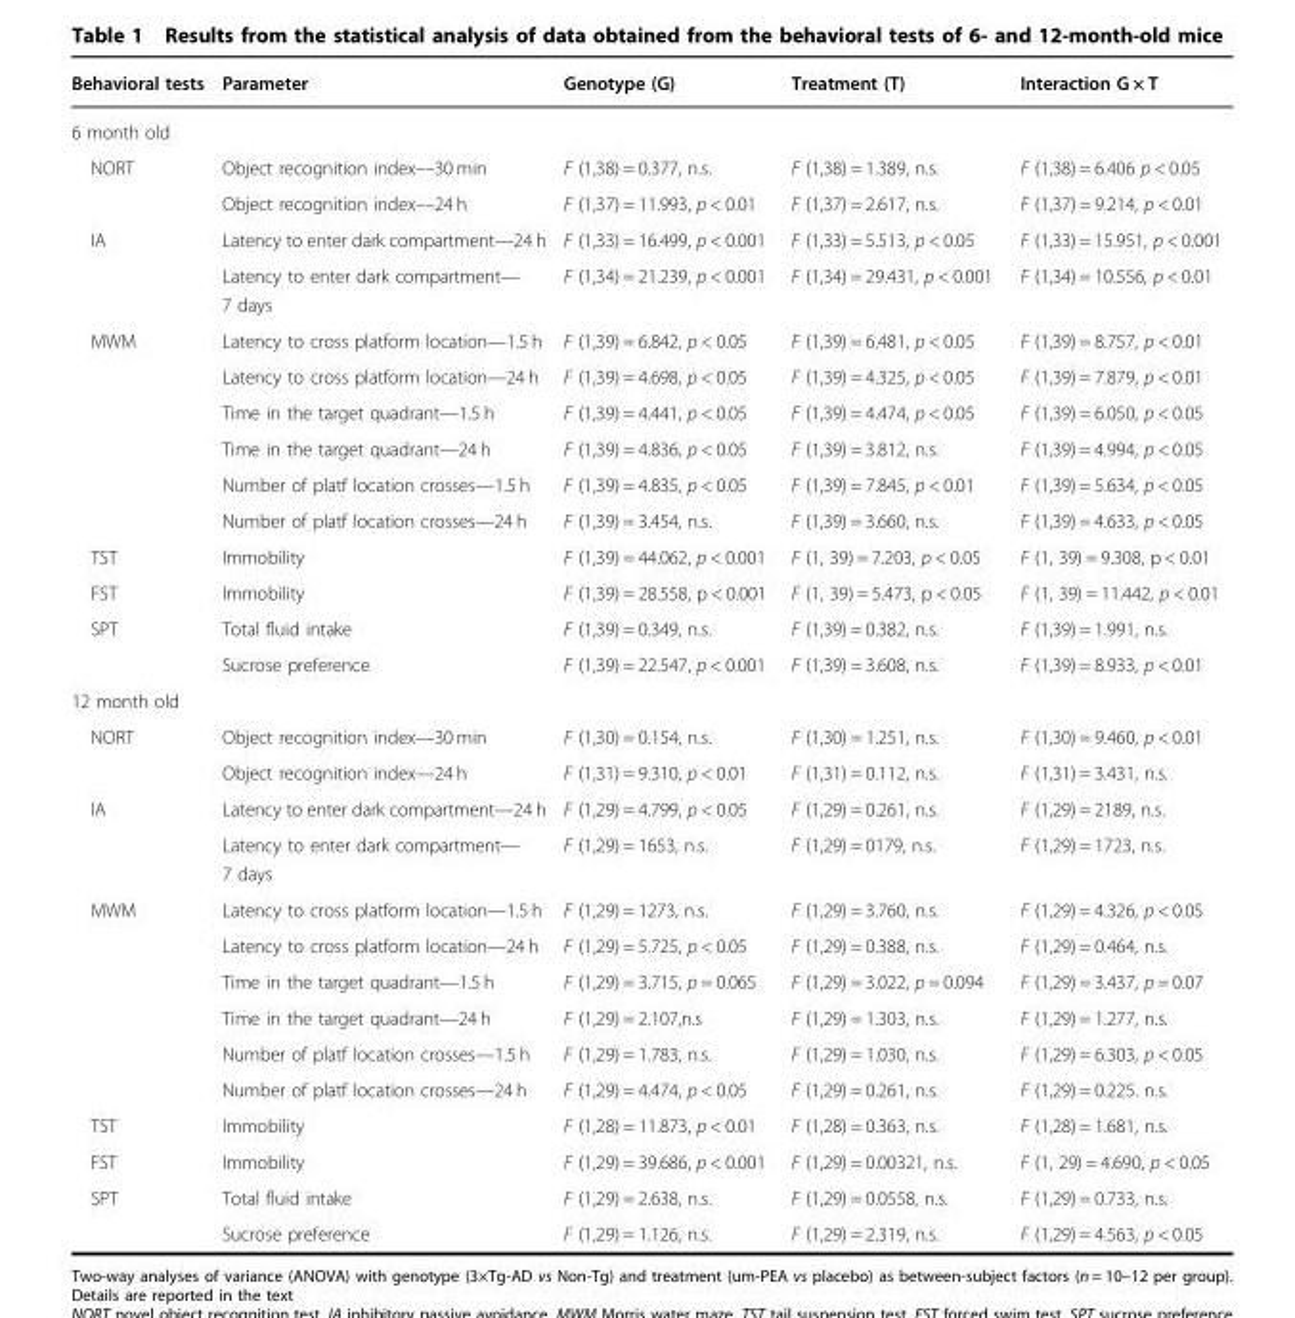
<table><thead><tr><td>Behavioral tests</td><td>Parameter</td><td>Genotype (G)</td><td>Treatment (T)</td><td>Interaction G × T</td></tr></thead><tbody><tr><td colspan="5">6 month old</td></tr><tr><td rowspan="2">NORT</td><td>Object recognition index––30 min</td><td>F (1,38) = 0.377, n.s.</td><td>F (1,38) = 1.389, n.s.</td><td>F (1,38) = 6.406 p &lt; 0.05</td></tr><tr><td>Object recognition index––24 h</td><td>F (1,37) = 11.993, p &lt; 0.01</td><td>F (1,37) = 2.617, n.s.</td><td>F (1,37) = 9.214, p &lt; 0.01</td></tr><tr><td rowspan="2">IA</td><td>Latency to enter dark compartment—24 h</td><td>F (1,33) = 16.499, p &lt; 0.001</td><td>F (1,33) = 5.513, p &lt; 0.05</td><td>F (1,33) = 15.951, p &lt; 0.001</td></tr><tr><td>Latency to enter dark compartment— 7 days</td><td>F (1,34) = 21.239, p &lt; 0.001</td><td>F (1,34) = 29.431, p &lt; 0.001</td><td>F (1,34) = 10.556, p &lt; 0.01</td></tr><tr><td rowspan="6">MWM</td><td>Latency to cross platform location—1.5 h</td><td>F (1,39) = 6.842, p &lt; 0.05</td><td>F (1,39) = 6.481, p &lt; 0.05</td><td>F (1,39) = 8.757, p &lt; 0.01</td></tr><tr><td>Latency to cross platform location—24 h</td><td>F (1,39) = 4.698, p &lt; 0.05</td><td>F (1,39) = 4.325, p &lt; 0.05</td><td>F (1,39) = 7.879, p &lt; 0.01</td></tr><tr><td>Time in the target quadrant—1.5 h</td><td>F (1,39) = 4.441, p &lt; 0.05</td><td>F (1,39) = 4.474, p &lt; 0.05</td><td>F (1,39) = 6.050, p &lt; 0.05</td></tr><tr><td>Time in the target quadrant—24 h</td><td>F (1,39) = 4.836, p &lt; 0.05</td><td>F (1,39) = 3.812, n.s.</td><td>F (1,39) = 4.994, p &lt; 0.05</td></tr><tr><td>Number of platf location crosses—1.5 h</td><td>F (1,39) = 4.835, p &lt; 0.05</td><td>F (1,39) = 7.845, p &lt; 0.01</td><td>F (1,39) = 5.634, p &lt; 0.05</td></tr><tr><td>Number of platf location crosses—24 h</td><td>F (1,39) = 3.454, n.s.</td><td>F (1,39) = 3.660, n.s.</td><td>F (1,39) = 4.633, p &lt; 0.05</td></tr><tr><td>TST</td><td>Immobility</td><td>F (1,39) = 44.062, p &lt; 0.001</td><td>F (1, 39) = 7.203, p &lt; 0.05</td><td>F (1, 39) = 9.308, p &lt; 0.01</td></tr><tr><td>FST</td><td>Immobility</td><td>F (1,39) = 28.558, p &lt; 0.001</td><td>F (1, 39) = 5.473, p &lt; 0.05</td><td>F (1, 39) = 11.442, p &lt; 0.01</td></tr><tr><td rowspan="2">SPT</td><td>Total fluid intake</td><td>F (1,39) = 0.349, n.s.</td><td>F (1,39) = 0.382, n.s.</td><td>F (1,39) = 1.991, n.s.</td></tr><tr><td>Sucrose preference</td><td>F (1,39) = 22.547, p &lt; 0.001</td><td>F (1,39) = 3.608, n.s.</td><td>F (1,39) = 8.933, p &lt; 0.01</td></tr><tr><td colspan="5">12 month old</td></tr><tr><td rowspan="2">NORT</td><td>Object recognition index—30 min</td><td>F (1,30) = 0.154, n.s.</td><td>F (1,30) = 1.251, n.s.</td><td>F (1,30) = 9.460, p &lt; 0.01</td></tr><tr><td>Object recognition index—24 h</td><td>F (1,31) = 9.310, p &lt; 0.01</td><td>F (1,31) = 0.112, n.s.</td><td>F (1,31) = 3.431, n.s.</td></tr><tr><td rowspan="2">IA</td><td>Latency to enter dark compartment—24 h</td><td>F (1,29) = 4.799, p &lt; 0.05</td><td>F (1,29) = 0.261, n.s.</td><td>F (1,29) = 2189, n.s.</td></tr><tr><td>Latency to enter dark compartment— 7 days</td><td>F (1,29) = 1653, n.s.</td><td>F (1,29) = 0179, n.s.</td><td>F (1,29) = 1723, n.s.</td></tr><tr><td rowspan="6">MWM</td><td>Latency to cross platform location—1.5 h</td><td>F (1,29) = 1273, n.s.</td><td>F (1,29) = 3.760, n.s.</td><td>F (1,29) = 4.326, p &lt; 0.05</td></tr><tr><td>Latency to cross platform location—24 h</td><td>F (1,29) = 5.725, p &lt; 0.05</td><td>F (1,29) = 0.388, n.s.</td><td>F (1,29) = 0.464, n.s.</td></tr><tr><td>Time in the target quadrant—1.5 h</td><td>F (1,29) = 3.715, p = 0.065</td><td>F (1,29) = 3.022, p = 0.094</td><td>F (1,29) = 3.437, p = 0.07</td></tr><tr><td>Time in the target quadrant—24 h</td><td>F (1,29) = 2.107,n.s</td><td>F (1,29) = 1.303, n.s.</td><td>F (1,29) = 1.277, n.s.</td></tr><tr><td>Number of platf location crosses—1.5 h</td><td>F (1,29) = 1.783, n.s.</td><td>F (1,29) = 1.030, n.s.</td><td>F (1,29) = 6.303, p &lt; 0.05</td></tr><tr><td>Number of platf location crosses—24 h</td><td>F (1,29) = 4.474, p &lt; 0.05</td><td>F (1,29) = 0.261, n.s.</td><td>F (1,29) = 0.225. n.s.</td></tr><tr><td>TST</td><td>Immobility</td><td>F (1,28) = 11.873, p &lt; 0.01</td><td>F (1,28) = 0.363, n.s.</td><td>F (1,28) = 1.681, n.s.</td></tr><tr><td>FST</td><td>Immobility</td><td>F (1,29) = 39.686, p &lt; 0.001</td><td>F (1,29) = 0.00321, n.s.</td><td>F (1, 29) = 4.690, p &lt; 0.05</td></tr><tr><td rowspan="2">SPT</td><td>Total fluid intake</td><td>F (1,29) = 2.638, n.s.</td><td>F (1,29) = 0.0558, n.s.</td><td>F (1,29) = 0.733, n.s.</td></tr><tr><td>Sucrose preference</td><td>F (1,29) = 1.126, n.s.</td><td>F (1,29) = 2.319, n.s.</td><td>F (1,29) = 4.563, p &lt; 0.05</td></tr></tbody></table>